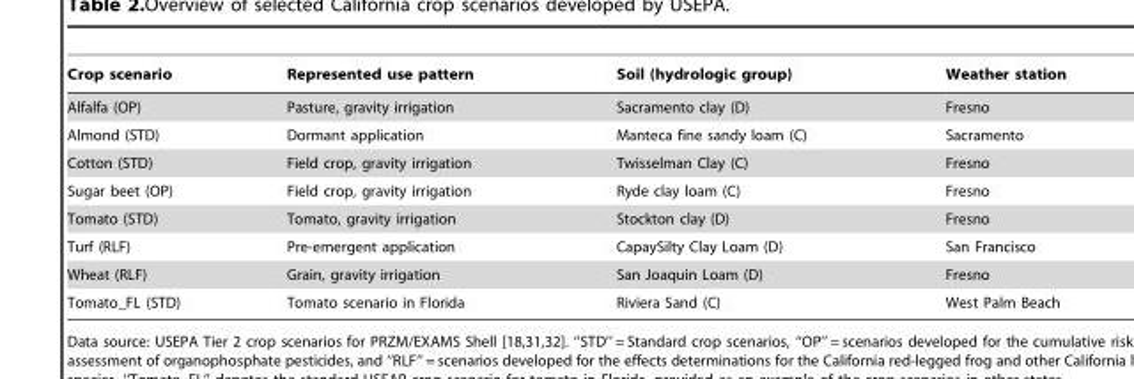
<table><thead><tr><td>Crop scenario</td><td>Represented use pattern</td><td>Soil (hydrologic group)</td><td>Weather station</td></tr></thead><tbody><tr><td>Alfalfa (OP)</td><td>Pasture, gravity irrigation</td><td>Sacramento clay (D)</td><td>Fresno</td></tr><tr><td>Almond (STD)</td><td>Dormant application</td><td>Manteca fine sandy loam (C)</td><td>Sacramento</td></tr><tr><td>Cotton (STD)</td><td>Field crop, gravity irrigation</td><td>Twisselman Clay (C)</td><td>Fresno</td></tr><tr><td>Sugar beet (OP)</td><td>Field crop, gravity irrigation</td><td>Ryde clay loam (C)</td><td>Fresno</td></tr><tr><td>Tomato (STD)</td><td>Tomato, gravity irrigation</td><td>Stockton clay (D)</td><td>Fresno</td></tr><tr><td>Turf (RLF)</td><td>Pre-emergent application</td><td>CapaySilty Clay Loam (D)</td><td>San Francisco</td></tr><tr><td>Wheat (RLF)</td><td>Grain, gravity irrigation</td><td>San Joaquin Loam (D)</td><td>Fresno</td></tr><tr><td>Tomato_FL (STD)</td><td>Tomato scenario in Florida</td><td>Riviera Sand (C)</td><td>West Palm Beach</td></tr></tbody></table>